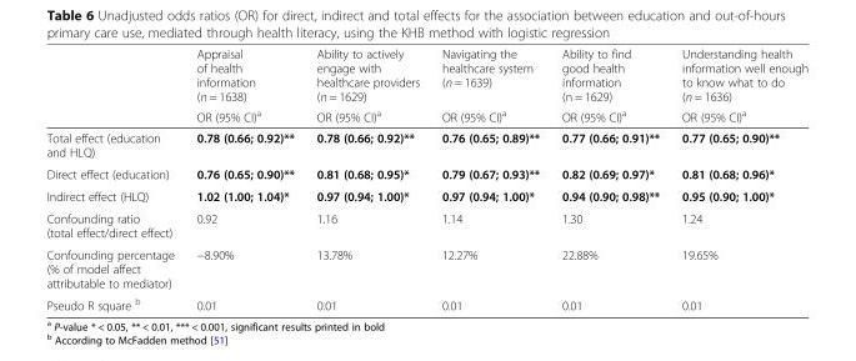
<table><thead><tr><td rowspan="2"></td><td rowspan="2">Appraisal of health information (n = 1638) OR (95% CI)<sup>a</sup></td><td rowspan="2">Ability to actively engage with healthcare providers (n = 1629) OR (95% CI)<sup>a</sup></td><td rowspan="2">Navigating the healthcare system (n = 1639) OR (95% CI)<sup>a</sup></td><td rowspan="2">Ability to find good health information (n = 1629) OR (95% CI)<sup>a</sup></td><td rowspan="2">Understanding health information well enough to know what to do (n = 1636) OR (95% CI)<sup>a</sup></td></tr><tr></tr></thead><tbody><tr><td>Total effect (education and HLQ)</td><td>0.78 (0.66; 0.92)**</td><td>0.78 (0.66; 0.92)**</td><td>0.76 (0.65; 0.89)**</td><td>0.77 (0.66; 0.91)**</td><td>0.77 (0.65; 0.90)**</td></tr><tr><td>Direct effect (education)</td><td>0.76 (0.65; 0.90)**</td><td>0.81 (0.68; 0.95)*</td><td>0.79 (0.67; 0.93)**</td><td>0.82 (0.69; 0.97)*</td><td>0.81 (0.68; 0.96)*</td></tr><tr><td>Indirect effect (HLQ)</td><td>1.02 (1.00; 1.04)*</td><td>0.97 (0.94; 1.00)*</td><td>0.97 (0.94; 1.00)*</td><td>0.94 (0.90; 0.98)**</td><td>0.95 (0.90; 1.00)*</td></tr><tr><td>Confounding ratio (total effect/direct effect)</td><td>0.92</td><td>1.16</td><td>1.14</td><td>1.30</td><td>1.24</td></tr><tr><td>Confounding percentage (% of model affect attributable to mediator)</td><td>−8.90%</td><td>13.78%</td><td>12.27%</td><td>22.88%</td><td>19.65%</td></tr><tr><td>Pseudo R square <sup>b</sup></td><td>0.01</td><td>0.01</td><td>0.01</td><td>0.01</td><td>0.01</td></tr></tbody></table>